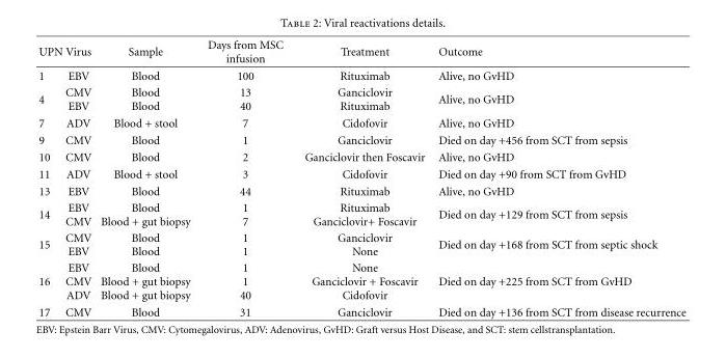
<table><thead><tr><td>UPN</td><td>Virus</td><td>Sample</td><td>Days from MSC infusion</td><td>Treatment</td><td>Outcome</td></tr></thead><tbody><tr><td>1</td><td>EBV</td><td>Blood</td><td>100</td><td>Rituximab</td><td>Alive, no GvHD</td></tr><tr><td>4</td><td>CMV EBV</td><td>Blood Blood</td><td>13 40</td><td>Ganciclovir Rituximab</td><td>Alive, no GvHD</td></tr><tr><td>7</td><td>ADV</td><td>Blood + stool</td><td>7</td><td>Cidofovir</td><td>Alive, no GvHD</td></tr><tr><td>9</td><td>CMV</td><td>Blood</td><td>1</td><td>Ganciclovir</td><td>Died on day +456 from SCT from sepsis</td></tr><tr><td>10</td><td>CMV</td><td>Blood</td><td>2</td><td>Ganciclovir then Foscavir</td><td>Alive, no GvHD</td></tr><tr><td>11</td><td>ADV</td><td>Blood + stool</td><td>3</td><td>Cidofovir</td><td>Died on day +90 from SCT from GvHD</td></tr><tr><td>13</td><td>EBV</td><td>Blood</td><td>44</td><td>Rituximab</td><td>Alive, no GvHD</td></tr><tr><td>14</td><td>EBV CMV</td><td>Blood Blood + gut biopsy</td><td>1 7</td><td>Rituximab Ganciclovir+ Foscavir</td><td>Died on day +129 from SCT from sepsis</td></tr><tr><td>15</td><td>CMV EBV</td><td>Blood Blood</td><td>1 1</td><td>Ganciclovir None</td><td>Died on day +168 from SCT from septic shock</td></tr><tr><td>16</td><td>EBV CMV ADV</td><td>Blood Blood + gut biopsy Blood + gut biopsy</td><td>1 1 40</td><td>None Ganciclovir + Foscavir Cidofovir</td><td>Died on day +225 from SCT from GvHD</td></tr><tr><td>17</td><td>CMV</td><td>Blood</td><td>31</td><td>Ganciclovir</td><td>Died on day +136 from SCT from disease recurrence</td></tr></tbody></table>